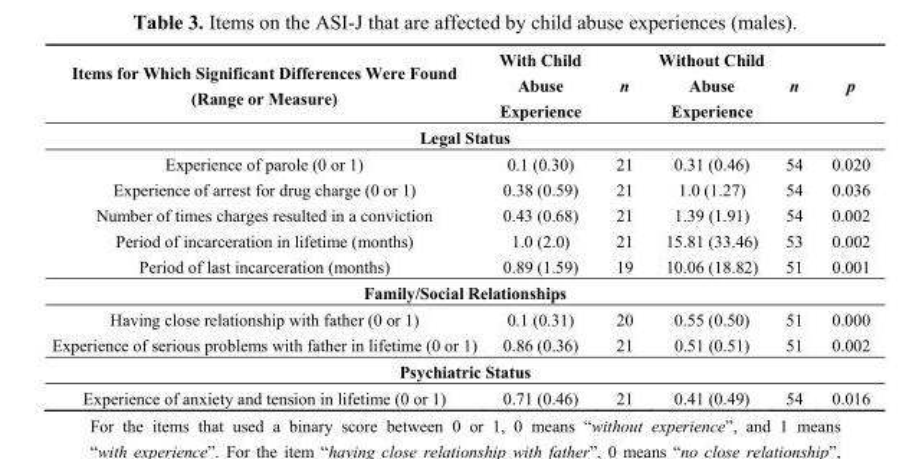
<table><thead><tr><td>Items for Which Significant Differences Were Found (Range or Measure)</td><td>With Child Abuse Experience</td><td>n</td><td>Without Child Abuse Experience</td><td>n</td><td>p</td></tr></thead><tbody><tr><td colspan="6">Legal Status</td></tr><tr><td>Experience of parole (0 or 1)</td><td>0.1 (0.30)</td><td>21</td><td>0.31 (0.46)</td><td>54</td><td>0.020</td></tr><tr><td>Experience of arrest for drug charge (0 or 1)</td><td>0.38 (0.59)</td><td>21</td><td>1.0 (1.27)</td><td>54</td><td>0.036</td></tr><tr><td>Number of times charges resulted in a conviction</td><td>0.43 (0.68)</td><td>21</td><td>1.39 (1.91)</td><td>54</td><td>0.002</td></tr><tr><td>Period of incarceration in lifetime (months)</td><td>1.0 (2.0)</td><td>21</td><td>15.81 (33.46)</td><td>53</td><td>0.002</td></tr><tr><td>Period of last incarceration (months)</td><td>0.89 (1.59)</td><td>19</td><td>10.06 (18.82)</td><td>51</td><td>0.001</td></tr><tr><td colspan="6">Family/Social Relationships</td></tr><tr><td>Having close relationship with father (0 or 1)</td><td>0.1 (0.31)</td><td>20</td><td>0.55 (0.50)</td><td>51</td><td>0.000</td></tr><tr><td>Experience of serious problems with father in lifetime (0 or 1)</td><td>0.86 (0.36)</td><td>21</td><td>0.51 (0.51)</td><td>51</td><td>0.002</td></tr><tr><td colspan="6">Psychiatric Status</td></tr><tr><td>Experience of anxiety and tension in lifetime (0 or 1)</td><td>0.71 (0.46)</td><td>21</td><td>0.41 (0.49)</td><td>54</td><td>0.016</td></tr></tbody></table>